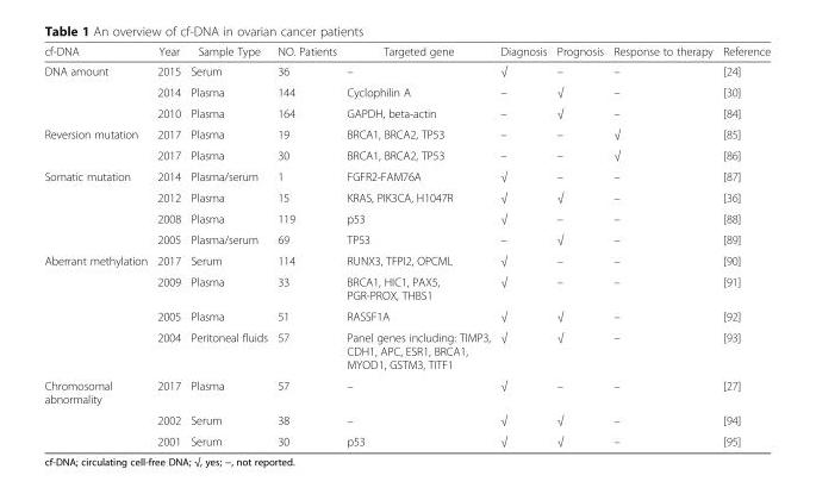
<table><thead><tr><td>cf-DNA</td><td>Year</td><td>Sample Type</td><td>NO. Patients</td><td>Targeted gene</td><td>Diagnosis</td><td>Prognosis</td><td>Response to therapy</td><td>Reference</td></tr></thead><tbody><tr><td rowspan="3">DNA amount</td><td>2015</td><td>Serum</td><td>36</td><td>–</td><td>√</td><td>–</td><td>–</td><td>[24]</td></tr><tr><td>2014</td><td>Plasma</td><td>144</td><td>Cyclophilin A</td><td>–</td><td>√</td><td>–</td><td>[30]</td></tr><tr><td>2010</td><td>Plasma</td><td>164</td><td>GAPDH, beta-actin</td><td>–</td><td>√</td><td>–</td><td>[84]</td></tr><tr><td rowspan="2">Reversion mutation</td><td>2017</td><td>Plasma</td><td>19</td><td>BRCA1, BRCA2, TP53</td><td>–</td><td>–</td><td>√</td><td>[85]</td></tr><tr><td>2017</td><td>Plasma</td><td>30</td><td>BRCA1, BRCA2, TP53</td><td>–</td><td>–</td><td>√</td><td>[86]</td></tr><tr><td rowspan="4">Somatic mutation</td><td>2014</td><td>Plasma/serum</td><td>1</td><td>FGFR2-FAM76A</td><td>√</td><td>–</td><td>–</td><td>[87]</td></tr><tr><td>2012</td><td>Plasma</td><td>15</td><td>KRAS, PIK3CA, H1047R</td><td>√</td><td>√</td><td>–</td><td>[36]</td></tr><tr><td>2008</td><td>Plasma</td><td>119</td><td>p53</td><td>√</td><td>–</td><td>–</td><td>[88]</td></tr><tr><td>2005</td><td>Plasma/serum</td><td>69</td><td>TP53</td><td>–</td><td>√</td><td>–</td><td>[89]</td></tr><tr><td rowspan="4">Aberrant methylation</td><td>2017</td><td>Serum</td><td>114</td><td>RUNX3, TFPI2, OPCML</td><td>√</td><td>–</td><td>–</td><td>[90]</td></tr><tr><td>2009</td><td>Plasma</td><td>33</td><td>BRCA1, HIC1, PAX5, PGR-PROX, THBS1</td><td>√</td><td>–</td><td>–</td><td>[91]</td></tr><tr><td>2005</td><td>Plasma</td><td>51</td><td>RASSF1A</td><td>√</td><td>√</td><td>–</td><td>[92]</td></tr><tr><td>2004</td><td>Peritoneal fluids</td><td>57</td><td>Panel genes including: TIMP3, CDH1, APC, ESR1, BRCA1, MYOD1, GSTM3, TITF1</td><td>√</td><td>√</td><td>–</td><td>[93]</td></tr><tr><td rowspan="3">Chromosomal abnormality</td><td>2017</td><td>Plasma</td><td>57</td><td>–</td><td>√</td><td>–</td><td>–</td><td>[27]</td></tr><tr><td>2002</td><td>Serum</td><td>38</td><td>–</td><td>√</td><td>√</td><td>–</td><td>[94]</td></tr><tr><td>2001</td><td>Serum</td><td>30</td><td>p53</td><td>√</td><td>√</td><td>–</td><td>[95]</td></tr></tbody></table>